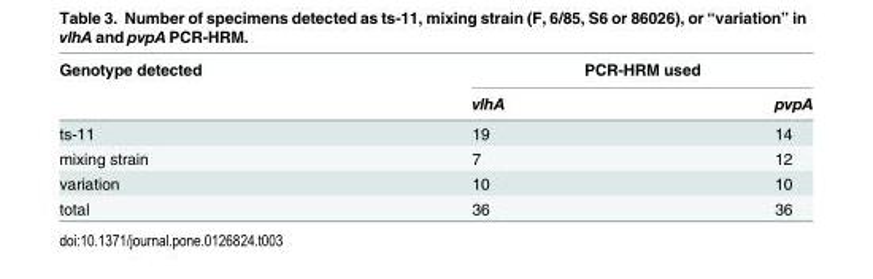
<table><thead><tr><td rowspan="2">Genotype detected</td><td colspan="2">PCR-HRM used</td></tr><tr><td>vlhA</td><td>pvpA</td></tr></thead><tbody><tr><td>ts-11</td><td>19</td><td>14</td></tr><tr><td>mixing strain</td><td>7</td><td>12</td></tr><tr><td>variation</td><td>10</td><td>10</td></tr><tr><td>total</td><td>36</td><td>36</td></tr></tbody></table>